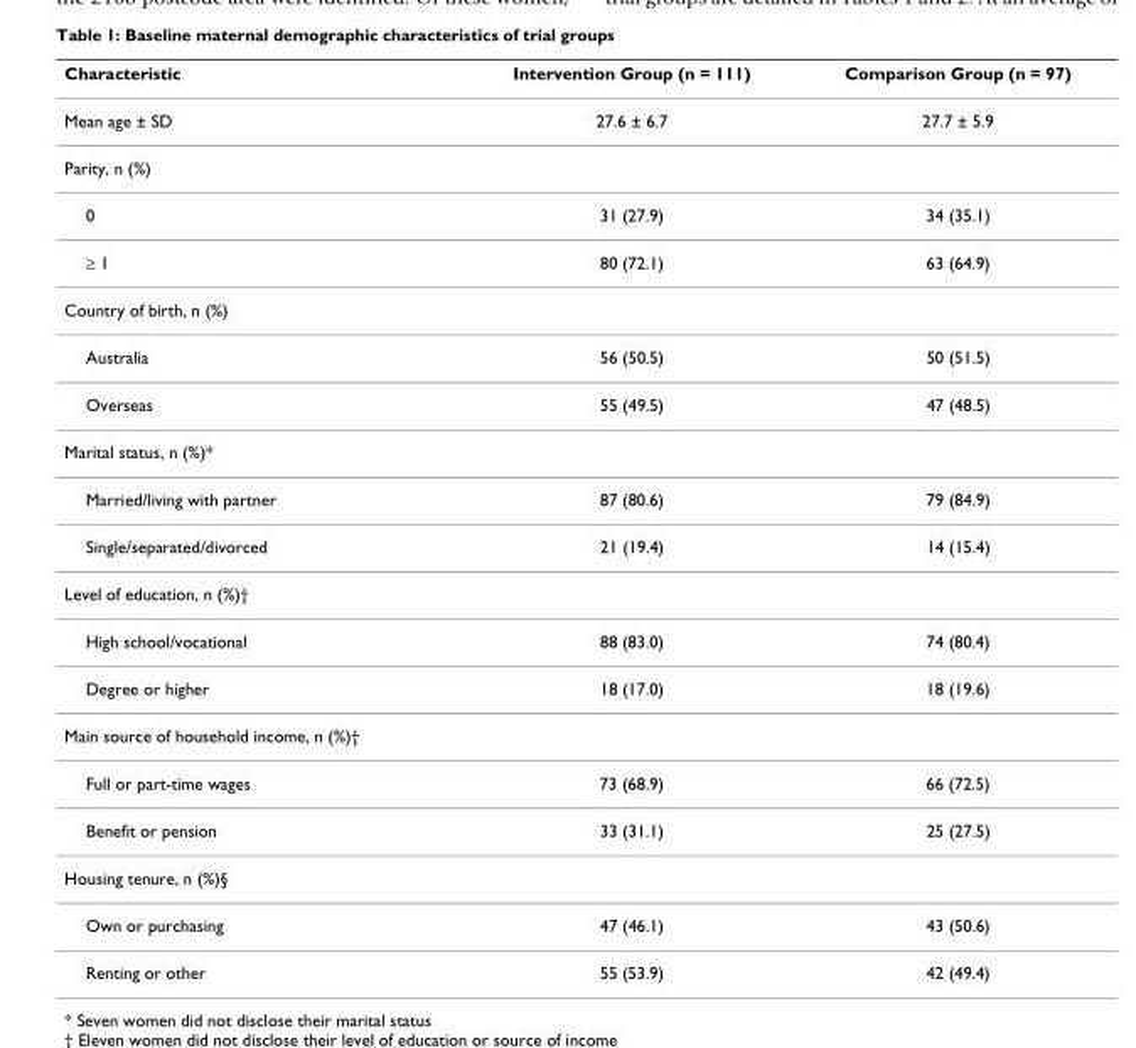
<table><thead><tr><td>Characteristic</td><td>Intervention Group (n = 111)</td><td>Comparison Group (n = 97)</td></tr></thead><tbody><tr><td>Mean age ± SD</td><td>27.6 ± 6.7</td><td>27.7 ± 5.9</td></tr><tr><td colspan="3">Parity, n (%)</td></tr><tr><td>0</td><td>31 (27.9)</td><td>34 (35.1)</td></tr><tr><td>≥ 1</td><td>80 (72.1)</td><td>63 (64.9)</td></tr><tr><td colspan="3">Country of birth, n (%)</td></tr><tr><td>Australia</td><td>56 (50.5)</td><td>50 (51.5)</td></tr><tr><td>Overseas</td><td>55 (49.5)</td><td>47 (48.5)</td></tr><tr><td colspan="3">Marital status, n (%)*</td></tr><tr><td>Married/living with partner</td><td>87 (80.6)</td><td>79 (84.9)</td></tr><tr><td>Single/separated/divorced</td><td>21 (19.4)</td><td>14 (15.4)</td></tr><tr><td colspan="3">Level of education, n (%)†</td></tr><tr><td>High school/vocational</td><td>88 (83.0)</td><td>74 (80.4)</td></tr><tr><td>Degree or higher</td><td>18 (17.0)</td><td>18 (19.6)</td></tr><tr><td colspan="3">Main source of household income, n (%)†</td></tr><tr><td>Full or part-time wages</td><td>73 (68.9)</td><td>66 (72.5)</td></tr><tr><td>Benefit or pension</td><td>33 (31.1)</td><td>25 (27.5)</td></tr><tr><td colspan="3">Housing tenure, n (%)§</td></tr><tr><td>Own or purchasing</td><td>47 (46.1)</td><td>43 (50.6)</td></tr><tr><td>Renting or other</td><td>55 (53.9)</td><td>42 (49.4)</td></tr></tbody></table>